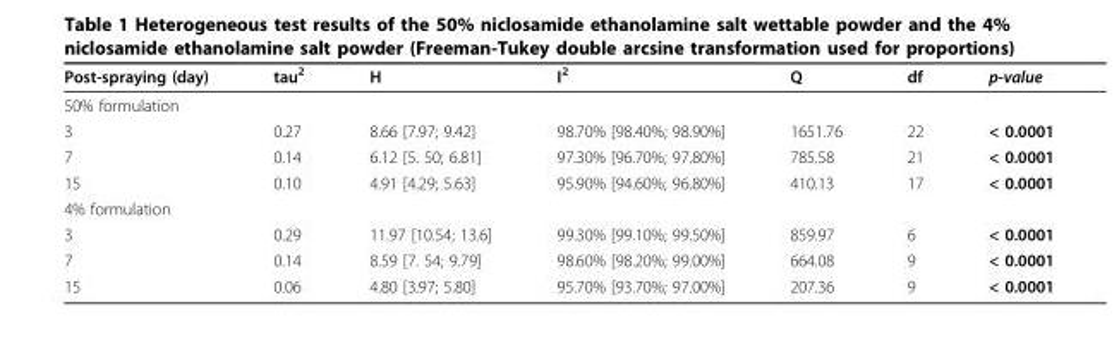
<table><thead><tr><td>Post-spraying (day)</td><td>tau<sup>2</sup></td><td>H</td><td>I<sup>2</sup></td><td>Q</td><td>df</td><td>p-value</td></tr></thead><tbody><tr><td colspan="7">50% formulation</td></tr><tr><td>3</td><td>0.27</td><td>8.66 [7.97; 9.42]</td><td>98.70% [98.40%; 98.90%]</td><td>1651.76</td><td>22</td><td>&lt; 0.0001</td></tr><tr><td>7</td><td>0.14</td><td>6.12 [5. 50; 6.81]</td><td>97.30% [96.70%; 97.80%]</td><td>785.58</td><td>21</td><td>&lt; 0.0001</td></tr><tr><td>15</td><td>0.10</td><td>4.91 [4.29; 5.63]</td><td>95.90% [94.60%; 96.80%]</td><td>410.13</td><td>17</td><td>&lt; 0.0001</td></tr><tr><td colspan="7">4% formulation</td></tr><tr><td>3</td><td>0.29</td><td>11.97 [10.54; 13.6]</td><td>99.30% [99.10%; 99.50%]</td><td>859.97</td><td>6</td><td>&lt; 0.0001</td></tr><tr><td>7</td><td>0.14</td><td>8.59 [7. 54; 9.79]</td><td>98.60% [98.20%; 99.00%]</td><td>664.08</td><td>9</td><td>&lt; 0.0001</td></tr><tr><td>15</td><td>0.06</td><td>4.80 [3.97; 5.80]</td><td>95.70% [93.70%; 97.00%]</td><td>207.36</td><td>9</td><td>&lt; 0.0001</td></tr></tbody></table>